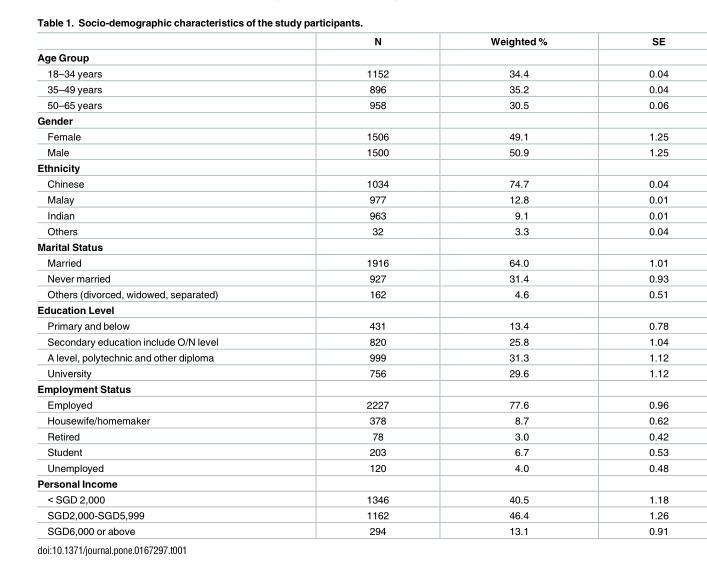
<table><thead><tr><td></td><td>N</td><td>Weighted %</td><td>SE</td></tr></thead><tbody><tr><td colspan="4">Age Group</td></tr><tr><td>18–34 years</td><td>1152</td><td>34.4</td><td>0.04</td></tr><tr><td>35–49 years</td><td>896</td><td>35.2</td><td>0.04</td></tr><tr><td>50–65 years</td><td>958</td><td>30.5</td><td>0.06</td></tr><tr><td colspan="4">Gender</td></tr><tr><td>Female</td><td>1506</td><td>49.1</td><td>1.25</td></tr><tr><td>Male</td><td>1500</td><td>50.9</td><td>1.25</td></tr><tr><td colspan="4">Ethnicity</td></tr><tr><td>Chinese</td><td>1034</td><td>74.7</td><td>0.04</td></tr><tr><td>Malay</td><td>977</td><td>12.8</td><td>0.01</td></tr><tr><td>Indian</td><td>963</td><td>9.1</td><td>0.01</td></tr><tr><td>Others</td><td>32</td><td>3.3</td><td>0.04</td></tr><tr><td colspan="4">Marital Status</td></tr><tr><td>Married</td><td>1916</td><td>64.0</td><td>1.01</td></tr><tr><td>Never married</td><td>927</td><td>31.4</td><td>0.93</td></tr><tr><td>Others (divorced, widowed, separated)</td><td>162</td><td>4.6</td><td>0.51</td></tr><tr><td colspan="4">Education Level</td></tr><tr><td>Primary and below</td><td>431</td><td>13.4</td><td>0.78</td></tr><tr><td>Secondary education include O/N level</td><td>820</td><td>25.8</td><td>1.04</td></tr><tr><td>A level, polytechnic and other diploma</td><td>999</td><td>31.3</td><td>1.12</td></tr><tr><td>University</td><td>756</td><td>29.6</td><td>1.12</td></tr><tr><td colspan="4">Employment Status</td></tr><tr><td>Employed</td><td>2227</td><td>77.6</td><td>0.96</td></tr><tr><td>Housewife/homemaker</td><td>378</td><td>8.7</td><td>0.62</td></tr><tr><td>Retired</td><td>78</td><td>3.0</td><td>0.42</td></tr><tr><td>Student</td><td>203</td><td>6.7</td><td>0.53</td></tr><tr><td>Unemployed</td><td>120</td><td>4.0</td><td>0.48</td></tr><tr><td colspan="4">Personal Income</td></tr><tr><td>&lt; SGD 2,000</td><td>1346</td><td>40.5</td><td>1.18</td></tr><tr><td>SGD2,000-SGD5,999</td><td>1162</td><td>46.4</td><td>1.26</td></tr><tr><td>SGD6,000 or above</td><td>294</td><td>13.1</td><td>0.91</td></tr></tbody></table>